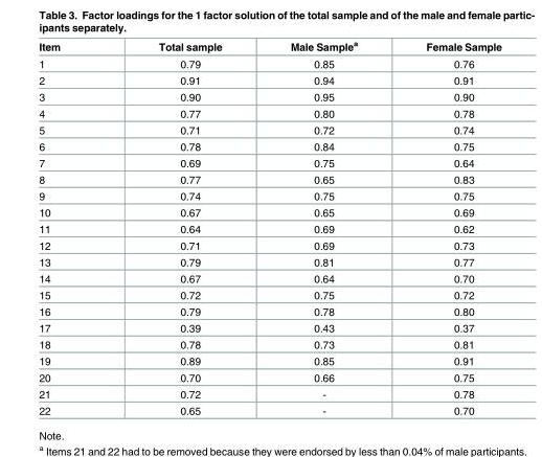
<table><thead><tr><td>Item</td><td>Total sample</td><td>Male Sample<sup>a</sup></td><td>Female Sample</td></tr></thead><tbody><tr><td>1</td><td>0.79</td><td>0.85</td><td>0.76</td></tr><tr><td>2</td><td>0.91</td><td>0.94</td><td>0.91</td></tr><tr><td>3</td><td>0.90</td><td>0.95</td><td>0.90</td></tr><tr><td>4</td><td>0.77</td><td>0.80</td><td>0.78</td></tr><tr><td>5</td><td>0.71</td><td>0.72</td><td>0.74</td></tr><tr><td>6</td><td>0.78</td><td>0.84</td><td>0.75</td></tr><tr><td>7</td><td>0.69</td><td>0.75</td><td>0.64</td></tr><tr><td>8</td><td>0.77</td><td>0.65</td><td>0.83</td></tr><tr><td>9</td><td>0.74</td><td>0.75</td><td>0.75</td></tr><tr><td>10</td><td>0.67</td><td>0.65</td><td>0.69</td></tr><tr><td>11</td><td>0.64</td><td>0.69</td><td>0.62</td></tr><tr><td>12</td><td>0.71</td><td>0.69</td><td>0.73</td></tr><tr><td>13</td><td>0.79</td><td>0.81</td><td>0.77</td></tr><tr><td>14</td><td>0.67</td><td>0.64</td><td>0.70</td></tr><tr><td>15</td><td>0.72</td><td>0.75</td><td>0.72</td></tr><tr><td>16</td><td>0.79</td><td>0.78</td><td>0.80</td></tr><tr><td>17</td><td>0.39</td><td>0.43</td><td>0.37</td></tr><tr><td>18</td><td>0.78</td><td>0.73</td><td>0.81</td></tr><tr><td>19</td><td>0.89</td><td>0.85</td><td>0.91</td></tr><tr><td>20</td><td>0.70</td><td>0.66</td><td>0.75</td></tr><tr><td>21</td><td>0.72</td><td>-</td><td>0.78</td></tr><tr><td>22</td><td>0.65</td><td>-</td><td>0.70</td></tr></tbody></table>